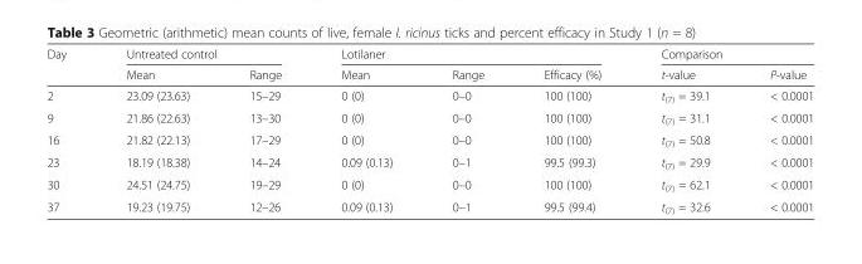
<table><thead><tr><td rowspan="2">Day</td><td colspan="2">Untreated control</td><td colspan="3">Lotilaner</td><td colspan="2">Comparison</td></tr><tr><td>Mean</td><td>Range</td><td>Mean</td><td>Range</td><td>Efficacy (%)</td><td>t-value</td><td>P-value</td></tr></thead><tbody><tr><td>2</td><td>23.09 (23.63)</td><td>15–29</td><td>0 (0)</td><td>0–0</td><td>100 (100)</td><td>t<sub>(7)</sub> = 39.1</td><td>&lt; 0.0001</td></tr><tr><td>9</td><td>21.86 (22.63)</td><td>13–30</td><td>0 (0)</td><td>0–0</td><td>100 (100)</td><td>t<sub>(7)</sub> = 31.1</td><td>&lt; 0.0001</td></tr><tr><td>16</td><td>21.82 (22.13)</td><td>17–29</td><td>0 (0)</td><td>0–0</td><td>100 (100)</td><td>t<sub>(7)</sub> = 50.8</td><td>&lt; 0.0001</td></tr><tr><td>23</td><td>18.19 (18.38)</td><td>14–24</td><td>0.09 (0.13)</td><td>0–1</td><td>99.5 (99.3)</td><td>t<sub>(7)</sub> = 29.9</td><td>&lt; 0.0001</td></tr><tr><td>30</td><td>24.51 (24.75)</td><td>19–29</td><td>0 (0)</td><td>0–0</td><td>100 (100)</td><td>t<sub>(7)</sub> = 62.1</td><td>&lt; 0.0001</td></tr><tr><td>37</td><td>19.23 (19.75)</td><td>12–26</td><td>0.09 (0.13)</td><td>0–1</td><td>99.5 (99.4)</td><td>t<sub>(7)</sub> = 32.6</td><td>&lt; 0.0001</td></tr></tbody></table>